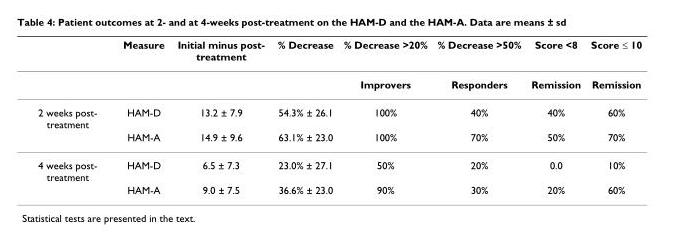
<table><thead><tr><td></td><td>Measure</td><td>Initial minus post- treatment</td><td>% Decrease</td><td>% Decrease &gt;20%</td><td>% Decrease &gt;50%</td><td>Score &lt;8</td><td>Score ≤ 10</td></tr></thead><tbody><tr><td></td><td></td><td></td><td></td><td>Improvers</td><td>Responders</td><td>Remission</td><td>Remission</td></tr><tr><td rowspan="2">2 weeks post- treatment</td><td>HAM-D</td><td>13.2 ± 7.9</td><td>54.3% ± 26.1</td><td>100%</td><td>40%</td><td>40%</td><td>60%</td></tr><tr><td>HAM-A</td><td>14.9 ± 9.6</td><td>63.1% ± 23.0</td><td>100%</td><td>70%</td><td>50%</td><td>70%</td></tr><tr><td rowspan="2">4 weeks post- treatment</td><td>HAM-D</td><td>6.5 ± 7.3</td><td>23.0% ± 27.1</td><td>50%</td><td>20%</td><td>0.0</td><td>10%</td></tr><tr><td>HAM-A</td><td>9.0 ± 7.5</td><td>36.6% ± 23.0</td><td>90%</td><td>30%</td><td>20%</td><td>60%</td></tr></tbody></table>